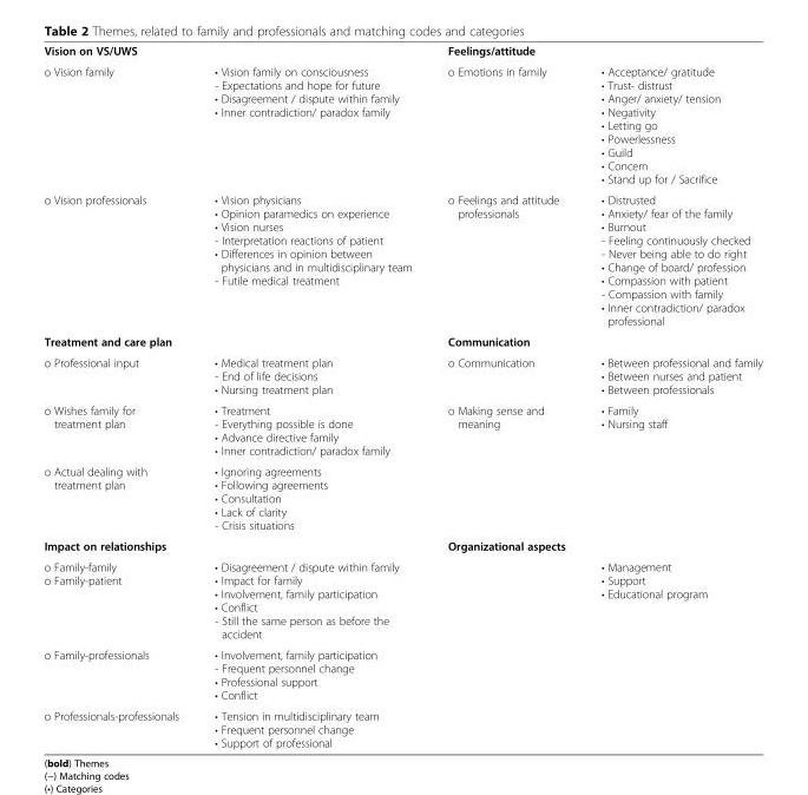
<table><tbody><tr><td>Vision on VS/UWS</td><td></td><td>Feelings/attitude</td><td></td></tr><tr><td>o Vision family</td><td>• Vision family on consciousness - Expectations and hope for future • Disagreement / dispute within family • Inner contradiction/ paradox family</td><td>o Emotions in family</td><td>• Acceptance/ gratitude • Trust- distrust • Anger/ anxiety/ tension • Negativity • Letting go • Powerlessness • Guild • Concern • Stand up for / Sacrifice</td></tr><tr><td>o Vision professionals</td><td>• Vision physicians • Opinion paramedics on experience • Vision nurses - Interpretation reactions of patient • Differences in opinion between physicians and in multidisciplinary team - Futile medical treatment</td><td>o Feelings and attitude professionals</td><td>• Distrusted • Anxiety/ fear of the family • Burnout - Feeling continuously checked - Never being able to do right • Change of board/ profession • Compassion with patient - Compassion with family • Inner contradiction/ paradox professional</td></tr><tr><td>Treatment and care plan</td><td></td><td>Communication</td><td></td></tr><tr><td>o Professional input</td><td>• Medical treatment plan - End of life decisions • Nursing treatment plan</td><td>o Communication</td><td>• Between professional and family • Between nurses and patient • Between professionals</td></tr><tr><td>o Wishes family for treatment plan</td><td>• Treatment - Everything possible is done • Advance directive family • Inner contradiction/ paradox family</td><td>o Making sense and meaning</td><td>• Family • Nursing staff</td></tr><tr><td>o Actual dealing with treatment plan</td><td>• Ignoring agreements • Following agreements • Consultation • Lack of clarity - Crisis situations</td><td></td><td></td></tr><tr><td>Impact on relationships</td><td></td><td>Organizational aspects</td><td></td></tr><tr><td>o Family-family o Family-patient</td><td>• Disagreement / dispute within family • Impact for family • Involvement, family participation • Conflict - Still the same person as before the accident</td><td></td><td>• Management • Support • Educational program</td></tr><tr><td>o Family-professionals</td><td>• Involvement, family participation - Frequent personnel change • Professional support • Conflict</td><td></td><td></td></tr><tr><td>o Professionals-professionals</td><td>• Tension in multidisciplinary team • Frequent personnel change • Support of professional</td><td></td><td></td></tr></tbody></table>